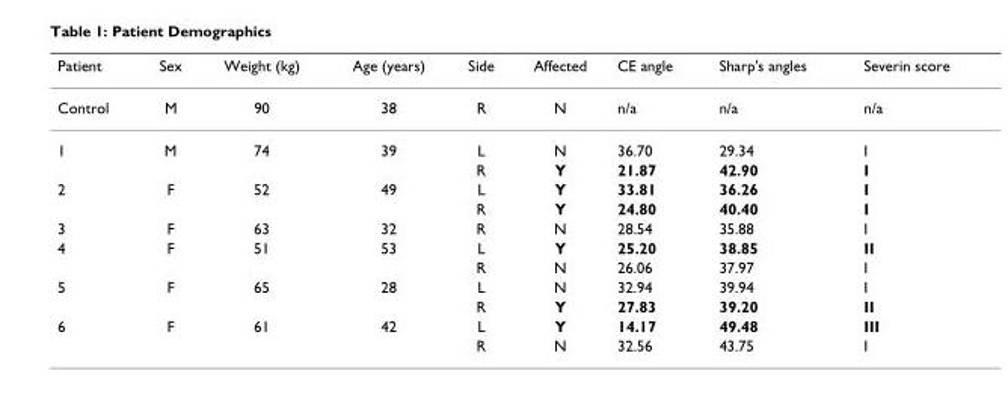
<table><thead><tr><td>Patient</td><td>Sex</td><td>Weight (kg)</td><td>Age (years)</td><td>Side</td><td>Affected</td><td>CE angle</td><td>Sharp&#x27;s angles</td><td>Severin score</td></tr></thead><tbody><tr><td>Control</td><td>M</td><td>90</td><td>38</td><td>R</td><td>N</td><td>n/a</td><td>n/a</td><td>n/a</td></tr><tr><td rowspan="2">1</td><td>M</td><td>74</td><td>39</td><td>L</td><td>N</td><td>36.70</td><td>29.34</td><td>I</td></tr><tr><td></td><td></td><td></td><td>R</td><td>Y</td><td>21.87</td><td>42.90</td><td>I</td></tr><tr><td rowspan="2">2</td><td>F</td><td>52</td><td>49</td><td>L</td><td>Y</td><td>33.81</td><td>36.26</td><td>I</td></tr><tr><td></td><td></td><td></td><td>R</td><td>Y</td><td>24.80</td><td>40.40</td><td>I</td></tr><tr><td>3</td><td>F</td><td>63</td><td>32</td><td>R</td><td>N</td><td>28.54</td><td>35.88</td><td>I</td></tr><tr><td rowspan="2">4</td><td>F</td><td>51</td><td>53</td><td>L</td><td>Y</td><td>25.20</td><td>38.85</td><td>II</td></tr><tr><td></td><td></td><td></td><td>R</td><td>N</td><td>26.06</td><td>37.97</td><td>I</td></tr><tr><td rowspan="2">5</td><td>F</td><td>65</td><td>28</td><td>L</td><td>N</td><td>32.94</td><td>39.94</td><td>I</td></tr><tr><td></td><td></td><td></td><td>R</td><td>Y</td><td>27.83</td><td>39.20</td><td>II</td></tr><tr><td rowspan="2">6</td><td>F</td><td>61</td><td>42</td><td>L</td><td>Y</td><td>14.17</td><td>49.48</td><td>III</td></tr><tr><td></td><td></td><td></td><td>R</td><td>N</td><td>32.56</td><td>43.75</td><td>I</td></tr></tbody></table>